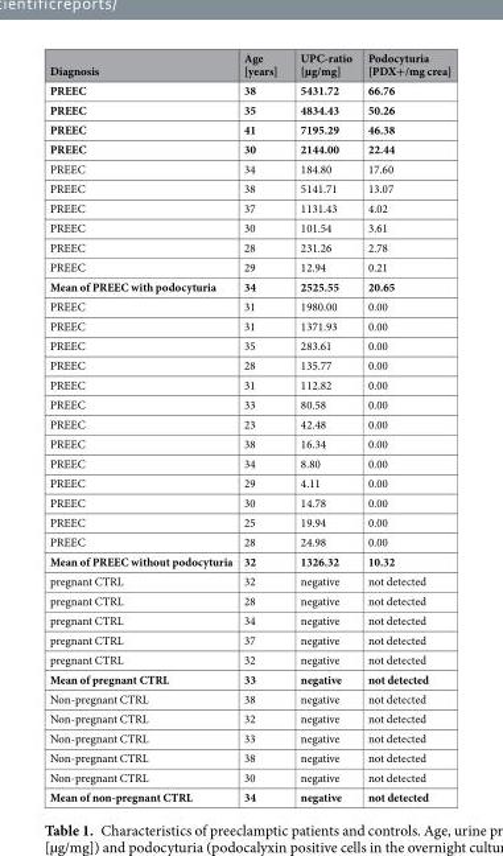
<table><thead><tr><td>Diagnosis</td><td>Age [years]</td><td>UPC-ratio [µg/mg]</td><td>Podocyturia [PDX+/mg crea]</td></tr></thead><tbody><tr><td>PREEC</td><td>38</td><td>5431.72</td><td>66.76</td></tr><tr><td>PREEC</td><td>35</td><td>4834.43</td><td>50.26</td></tr><tr><td>PREEC</td><td>41</td><td>7195.29</td><td>46.38</td></tr><tr><td>PREEC</td><td>30</td><td>2144.00</td><td>22.44</td></tr><tr><td>PREEC</td><td>34</td><td>184.80</td><td>17.60</td></tr><tr><td>PREEC</td><td>38</td><td>5141.71</td><td>13.07</td></tr><tr><td>PREEC</td><td>37</td><td>1131.43</td><td>4.02</td></tr><tr><td>PREEC</td><td>30</td><td>101.54</td><td>3.61</td></tr><tr><td>PREEC</td><td>28</td><td>231.26</td><td>2.78</td></tr><tr><td>PREEC</td><td>29</td><td>12.94</td><td>0.21</td></tr><tr><td>Mean of PREEC with podocyturia</td><td>34</td><td>2525.55</td><td>20.65</td></tr><tr><td>PREEC</td><td>31</td><td>1980.00</td><td>0.00</td></tr><tr><td>PREEC</td><td>31</td><td>1371.93</td><td>0.00</td></tr><tr><td>PREEC</td><td>35</td><td>283.61</td><td>0.00</td></tr><tr><td>PREEC</td><td>28</td><td>135.77</td><td>0.00</td></tr><tr><td>PREEC</td><td>31</td><td>112.82</td><td>0.00</td></tr><tr><td>PREEC</td><td>33</td><td>80.58</td><td>0.00</td></tr><tr><td>PREEC</td><td>23</td><td>42.48</td><td>0.00</td></tr><tr><td>PREEC</td><td>38</td><td>16.34</td><td>0.00</td></tr><tr><td>PREEC</td><td>34</td><td>8.80</td><td>0.00</td></tr><tr><td>PREEC</td><td>29</td><td>4.11</td><td>0.00</td></tr><tr><td>PREEC</td><td>30</td><td>14.78</td><td>0.00</td></tr><tr><td>PREEC</td><td>25</td><td>19.94</td><td>0.00</td></tr><tr><td>PREEC</td><td>28</td><td>24.98</td><td>0.00</td></tr><tr><td>Mean of PREEC without podocyturia</td><td>32</td><td>1326.32</td><td>10.32</td></tr><tr><td>pregnant CTRL</td><td>32</td><td>negative</td><td>not detected</td></tr><tr><td>pregnant CTRL</td><td>28</td><td>negative</td><td>not detected</td></tr><tr><td>pregnant CTRL</td><td>34</td><td>negative</td><td>not detected</td></tr><tr><td>pregnant CTRL</td><td>37</td><td>negative</td><td>not detected</td></tr><tr><td>pregnant CTRL</td><td>32</td><td>negative</td><td>not detected</td></tr><tr><td>Mean of pregnant CTRL</td><td>33</td><td>negative</td><td>not detected</td></tr><tr><td>Non-pregnant CTRL</td><td>38</td><td>negative</td><td>not detected</td></tr><tr><td>Non-pregnant CTRL</td><td>32</td><td>negative</td><td>not detected</td></tr><tr><td>Non-pregnant CTRL</td><td>33</td><td>negative</td><td>not detected</td></tr><tr><td>Non-pregnant CTRL</td><td>38</td><td>negative</td><td>not detected</td></tr><tr><td>Non-pregnant CTRL</td><td>30</td><td>negative</td><td>not detected</td></tr><tr><td>Mean of non-pregnant CTRL</td><td>34</td><td>negative</td><td>not detected</td></tr></tbody></table>